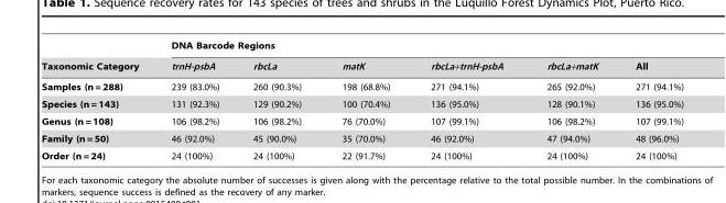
<table><thead><tr><td rowspan="2">Taxonomic Category</td><td colspan="6">DNA Barcode Regions</td></tr><tr><td>trnH-psbA</td><td>rbcLa</td><td>matK</td><td>rbcLa+trnH-psbA</td><td>rbcLa+matK</td><td>All</td></tr></thead><tbody><tr><td>Samples (n = 288)</td><td>239 (83.0%)</td><td>260 (90.3%)</td><td>198 (68.8%)</td><td>271 (94.1%)</td><td>265 (92.0%)</td><td>271 (94.1%)</td></tr><tr><td>Species (n = 143)</td><td>131 (92.3%)</td><td>129 (90.2%)</td><td>100 (70.4%)</td><td>136 (95.0%)</td><td>128 (90.1%)</td><td>136 (95.0%)</td></tr><tr><td>Genus (n = 108)</td><td>106 (98.2%)</td><td>106 (98.2%)</td><td>76 (70.0%)</td><td>107 (99.1%)</td><td>106 (98.2%)</td><td>107 (99.1%)</td></tr><tr><td>Family (n = 50)</td><td>46 (92.0%)</td><td>45 (90.0%)</td><td>35 (70.0%)</td><td>46 (92.0%)</td><td>47 (94.0%)</td><td>48 (96.0%)</td></tr><tr><td>Order (n = 24)</td><td>24 (100%)</td><td>24 (100%)</td><td>22 (91.7%)</td><td>24 (100%)</td><td>24 (100%)</td><td>24 (100%)</td></tr></tbody></table>